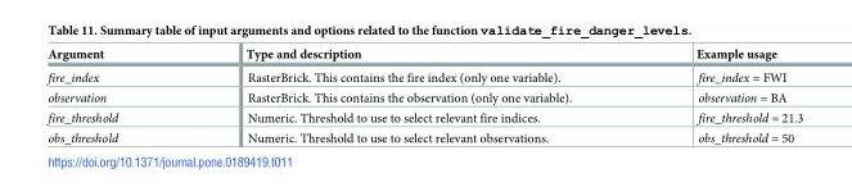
<table><thead><tr><td>Argument</td><td>Type and description</td><td>Example usage</td></tr></thead><tbody><tr><td>fire_index</td><td>RasterBrick. This contains the fire index (only one variable).</td><td>fire_index = FWI</td></tr><tr><td>observation</td><td>RasterBrick. This contains the observation (only one variable).</td><td>observation = BA</td></tr><tr><td>fire_threshold</td><td>Numeric. Threshold to use to select relevant fire indices.</td><td>fire_threshold = 21.3</td></tr><tr><td>obs_threshold</td><td>Numeric. Threshold to use to select relevant observations.</td><td>obs_threshold = 50</td></tr></tbody></table>